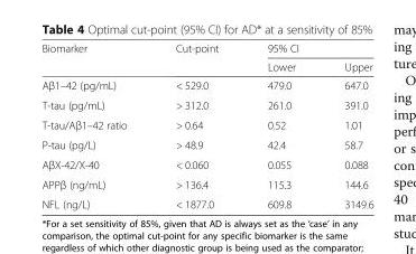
<table><thead><tr><td rowspan="2">Biomarker</td><td rowspan="2">Cut-point</td><td colspan="2">95% CI</td></tr><tr><td>Lower</td><td>Upper</td></tr></thead><tbody><tr><td>Aβ1–42 (pg/mL)</td><td>&lt; 529.0</td><td>479.0</td><td>647.0</td></tr><tr><td>T-tau (pg/mL)</td><td>&gt; 312.0</td><td>261.0</td><td>391.0</td></tr><tr><td>T-tau/Aβ1–42 ratio</td><td>&gt; 0.64</td><td>0.52</td><td>1.01</td></tr><tr><td>P-tau (pg/L)</td><td>&gt; 48.9</td><td>42.4</td><td>58.7</td></tr><tr><td>AβX-42/X-40</td><td>&lt; 0.060</td><td>0.055</td><td>0.088</td></tr><tr><td>APPβ (ng/mL)</td><td>&gt; 136.4</td><td>115.3</td><td>144.6</td></tr><tr><td>NFL (ng/L)</td><td>&lt; 1877.0</td><td>609.8</td><td>3149.6</td></tr></tbody></table>